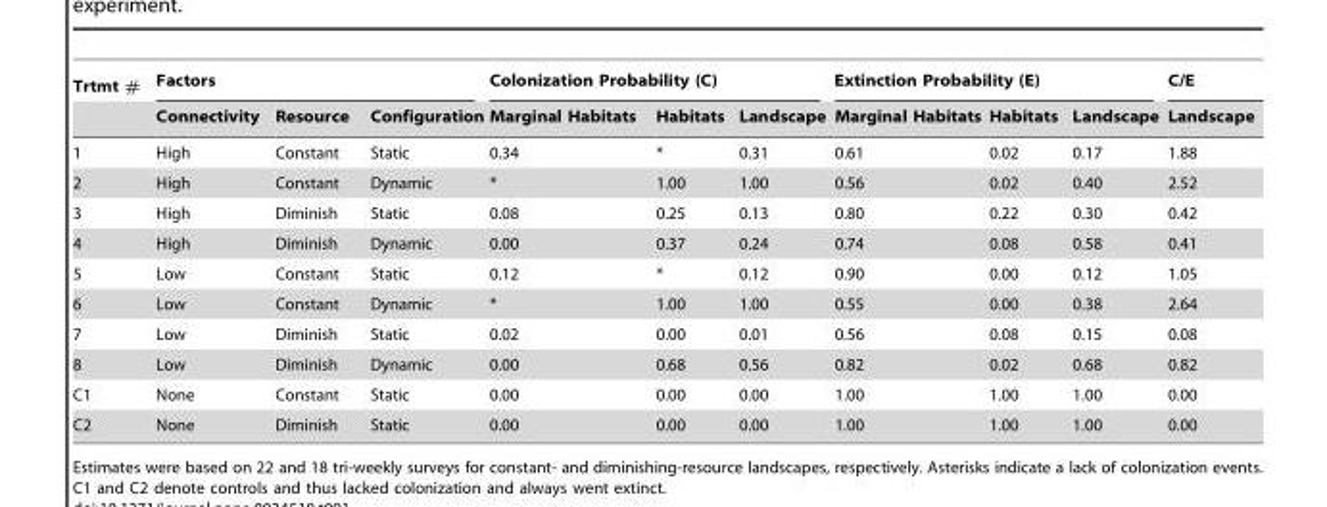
<table><thead><tr><td rowspan="2">Trtmt #</td><td colspan="3">Factors</td><td colspan="3">Colonization Probability (C)</td><td colspan="3">Extinction Probability (E)</td><td rowspan="2">C/E Landscape</td></tr><tr><td>Connectivity</td><td>Resource</td><td>Configuration</td><td>Marginal Habitats</td><td>Habitats</td><td>Landscape</td><td>Marginal Habitats</td><td>Habitats</td><td>Landscape</td></tr></thead><tbody><tr><td>1</td><td>High</td><td>Constant</td><td>Static</td><td>0.34</td><td>*</td><td>0.31</td><td>0.61</td><td>0.02</td><td>0.17</td><td>1.88</td></tr><tr><td>2</td><td>High</td><td>Constant</td><td>Dynamic</td><td>*</td><td>1.00</td><td>1.00</td><td>0.56</td><td>0.02</td><td>0.40</td><td>2.52</td></tr><tr><td>3</td><td>High</td><td>Diminish</td><td>Static</td><td>0.08</td><td>0.25</td><td>0.13</td><td>0.80</td><td>0.22</td><td>0.30</td><td>0.42</td></tr><tr><td>4</td><td>High</td><td>Diminish</td><td>Dynamic</td><td>0.00</td><td>0.37</td><td>0.24</td><td>0.74</td><td>0.08</td><td>0.58</td><td>0.41</td></tr><tr><td>5</td><td>Low</td><td>Constant</td><td>Static</td><td>0.12</td><td>*</td><td>0.12</td><td>0.90</td><td>0.00</td><td>0.12</td><td>1.05</td></tr><tr><td>6</td><td>Low</td><td>Constant</td><td>Dynamic</td><td>*</td><td>1.00</td><td>1.00</td><td>0.55</td><td>0.00</td><td>0.38</td><td>2.64</td></tr><tr><td>7</td><td>Low</td><td>Diminish</td><td>Static</td><td>0.02</td><td>0.00</td><td>0.01</td><td>0.56</td><td>0.08</td><td>0.15</td><td>0.08</td></tr><tr><td>8</td><td>Low</td><td>Diminish</td><td>Dynamic</td><td>0.00</td><td>0.68</td><td>0.56</td><td>0.82</td><td>0.02</td><td>0.68</td><td>0.82</td></tr><tr><td>C1</td><td>None</td><td>Constant</td><td>Static</td><td>0.00</td><td>0.00</td><td>0.00</td><td>1.00</td><td>1.00</td><td>1.00</td><td>0.00</td></tr><tr><td>C2</td><td>None</td><td>Diminish</td><td>Static</td><td>0.00</td><td>0.00</td><td>0.00</td><td>1.00</td><td>1.00</td><td>1.00</td><td>0.00</td></tr></tbody></table>